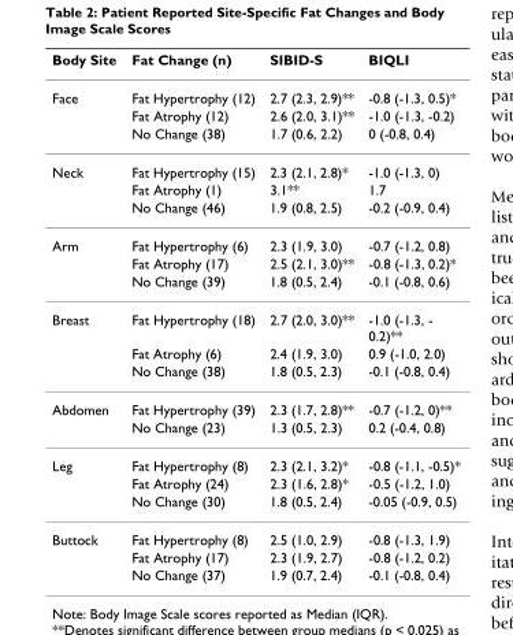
<table><thead><tr><td>Body Site</td><td>Fat Change (n)</td><td>SIBID-S</td><td>BIQLI</td></tr></thead><tbody><tr><td rowspan="3">Face</td><td>Fat Hypertrophy (12)</td><td>2.7 (2.3, 2.9)**</td><td>-0.8 (-1.3, 0.5)*</td></tr><tr><td>Fat Atrophy (12)</td><td>2.6 (2.0, 3.1)**</td><td>-1.0 (-1.3, -0.2)</td></tr><tr><td>No Change (38)</td><td>1.7 (0.6, 2.2)</td><td>0 (-0.8, 0.4)</td></tr><tr><td rowspan="3">Neck</td><td>Fat Hypertrophy (15)</td><td>2.3 (2.1, 2.8)*</td><td>-1.0 (-1.3, 0)</td></tr><tr><td>Fat Atrophy (1)</td><td>3.1**</td><td>1.7</td></tr><tr><td>No Change (46)</td><td>1.9 (0.8, 2.5)</td><td>-0.2 (-0.9, 0.4)</td></tr><tr><td rowspan="3">Arm</td><td>Fat Hypertrophy (6)</td><td>2.3 (1.9, 3.0)</td><td>-0.7 (-1.2, 0.8)</td></tr><tr><td>Fat Atrophy (17)</td><td>2.5 (2.1, 3.0)**</td><td>-0.8 (-1.3, 0.2)*</td></tr><tr><td>No Change (39)</td><td>1.8 (0.5, 2.4)</td><td>-0.1 (-0.8, 0.6)</td></tr><tr><td rowspan="3">Breast</td><td>Fat Hypertrophy (18)</td><td>2.7 (2.0, 3.0)**</td><td>-1.0 (-1.3, - 0.2)**</td></tr><tr><td>Fat Atrophy (6)</td><td>2.4 (1.9, 3.0)</td><td>0.9 (-1.0, 2.0)</td></tr><tr><td>No Change (38)</td><td>1.8 (0.5, 2.3)</td><td>-0.1 (-0.8, 0.4)</td></tr><tr><td rowspan="2">Abdomen</td><td>Fat Hypertrophy (39)</td><td>2.3 (1.7, 2.8)**</td><td>-0.7 (-1.2, 0)**</td></tr><tr><td>No Change (23)</td><td>1.3 (0.5, 2.3)</td><td>0.2 (-0.4, 0.8)</td></tr><tr><td rowspan="3">Leg</td><td>Fat Hypertrophy (8)</td><td>2.3 (2.1, 3.2)*</td><td>-0.8 (-1.1, -0.5)*</td></tr><tr><td>Fat Atrophy (24)</td><td>2.3 (1.6, 2.8)*</td><td>-0.5 (-1.2, 1.0)</td></tr><tr><td>No Change (30)</td><td>1.8 (0.5, 2.4)</td><td>-0.05 (-0.9, 0.5)</td></tr><tr><td rowspan="3">Buttock</td><td>Fat Hypertrophy (8)</td><td>2.5 (1.0, 2.9)</td><td>-0.8 (-1.3, 1.9)</td></tr><tr><td>Fat Atrophy (17)</td><td>2.3 (1.9, 2.7)</td><td>-0.8 (-1.2, 0.2)</td></tr><tr><td>No Change (37)</td><td>1.9 (0.7, 2.4)</td><td>-0.1 (-0.8, 0.4)</td></tr></tbody></table>